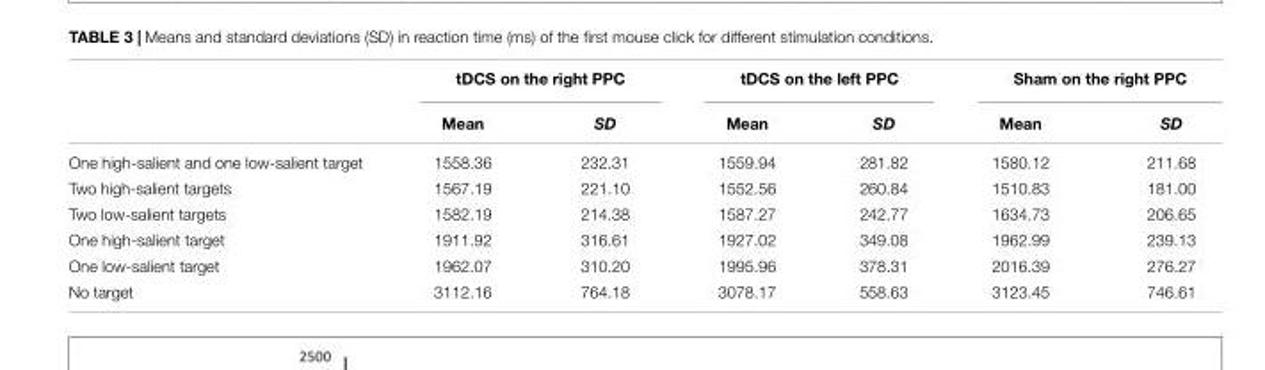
<table><thead><tr><td rowspan="2"></td><td colspan="2">tDCS on the right PPC</td><td colspan="2">tDCS on the left PPC</td><td colspan="2">Sham on the right PPC</td></tr><tr><td>Mean</td><td>SD</td><td>Mean</td><td>SD</td><td>Mean</td><td>SD</td></tr></thead><tbody><tr><td>One high-salient and one low-salient target</td><td>1558.36</td><td>232.31</td><td>1559.94</td><td>281.82</td><td>1580.12</td><td>211.68</td></tr><tr><td>Two high-salient targets</td><td>1567.19</td><td>221.10</td><td>1552.56</td><td>260.84</td><td>1510.83</td><td>181.00</td></tr><tr><td>Two low-salient targets</td><td>1582.19</td><td>214.38</td><td>1587.27</td><td>242.77</td><td>1634.73</td><td>206.65</td></tr><tr><td>One high-salient target</td><td>1911.92</td><td>316.61</td><td>1927.02</td><td>349.08</td><td>1962.99</td><td>239.13</td></tr><tr><td>One low-salient target</td><td>1962.07</td><td>310.20</td><td>1995.96</td><td>378.31</td><td>2016.39</td><td>276.27</td></tr><tr><td>No target</td><td>3112.16</td><td>764.18</td><td>3078.17</td><td>558.63</td><td>3123.45</td><td>746.61</td></tr></tbody></table>